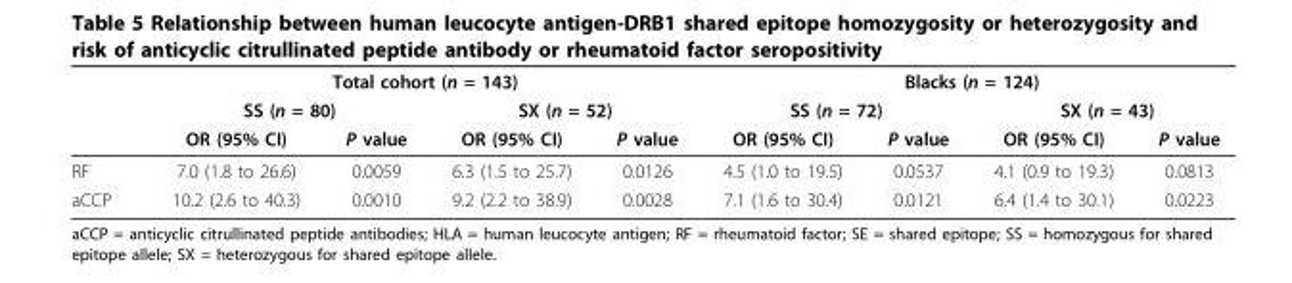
<table><thead><tr><td rowspan="3"></td><td colspan="4">Total cohort (n = 143)</td><td colspan="4">Blacks (n = 124)</td></tr><tr><td colspan="2">SS (n = 80)</td><td colspan="2">SX (n = 52)</td><td colspan="2">SS (n = 72)</td><td colspan="2">SX (n = 43)</td></tr><tr><td>OR (95% CI)</td><td>P value</td><td>OR (95% CI)</td><td>P value</td><td>OR (95% CI)</td><td>P value</td><td>OR (95% CI)</td><td>P value</td></tr></thead><tbody><tr><td>RF</td><td>7.0 (1.8 to 26.6)</td><td>0.0059</td><td>6.3 (1.5 to 25.7)</td><td>0.0126</td><td>4.5 (1.0 to 19.5)</td><td>0.0537</td><td>4.1 (0.9 to 19.3)</td><td>0.0813</td></tr><tr><td>aCCP</td><td>10.2 (2.6 to 40.3)</td><td>0.0010</td><td>9.2 (2.2 to 38.9)</td><td>0.0028</td><td>7.1 (1.6 to 30.4)</td><td>0.0121</td><td>6.4 (1.4 to 30.1)</td><td>0.0223</td></tr></tbody></table>